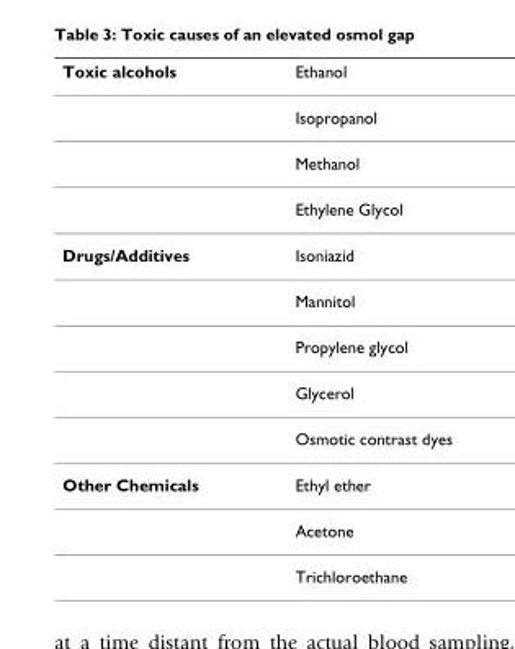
<table><thead><tr><td>Toxic alcohols</td><td>Ethanol</td></tr></thead><tbody><tr><td></td><td>Isopropanol</td></tr><tr><td></td><td>Methanol</td></tr><tr><td></td><td>Ethylene Glycol</td></tr><tr><td rowspan="5">Drugs/Additives</td><td>Isoniazid</td></tr><tr><td>Mannitol</td></tr><tr><td>Propylene glycol</td></tr><tr><td>Glycerol</td></tr><tr><td>Osmotic contrast dyes</td></tr><tr><td rowspan="3">Other Chemicals</td><td>Ethyl ether</td></tr><tr><td>Acetone</td></tr><tr><td>Trichloroethane</td></tr></tbody></table>